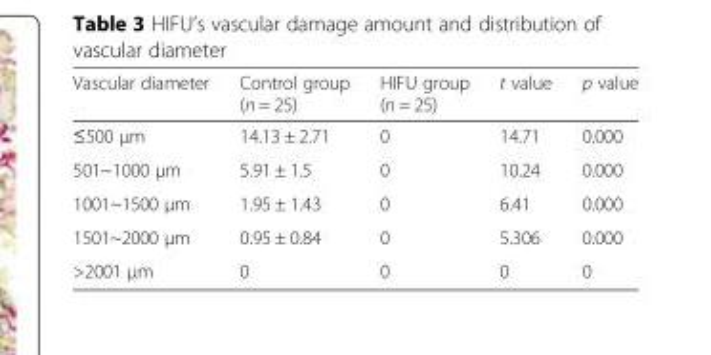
<table><thead><tr><td>Vascular diameter</td><td>Control group (n = 25)</td><td>HIFU group (n = 25)</td><td>t value</td><td>p value</td></tr></thead><tbody><tr><td>≤500 μm</td><td>14.13 ± 2.71</td><td>0</td><td>14.71</td><td>0.000</td></tr><tr><td>501~1000 μm</td><td>5.91 ± 1.5</td><td>0</td><td>10.24</td><td>0.000</td></tr><tr><td>1001~1500 μm</td><td>1.95 ± 1.43</td><td>0</td><td>6.41</td><td>0.000</td></tr><tr><td>1501~2000 μm</td><td>0.95 ± 0.84</td><td>0</td><td>5.306</td><td>0.000</td></tr><tr><td>&gt;2001 μm</td><td>0</td><td>0</td><td>0</td><td>0</td></tr></tbody></table>